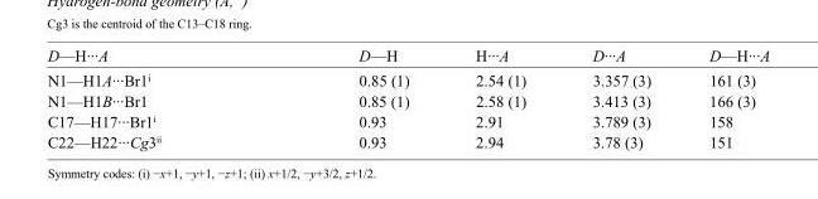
<table><tbody><tr><td>D—H···A</td><td>D—H</td><td>H···A</td><td>D···A</td><td>D—H···A</td></tr><tr><td>N1—H1A···Br1<sup>i</sup></td><td>0.85 (1)</td><td>2.54 (1)</td><td>3.357 (3)</td><td>161 (3)</td></tr><tr><td>N1—H1B···Br1</td><td>0.85 (1)</td><td>2.58 (1)</td><td>3.413 (3)</td><td>166 (3)</td></tr><tr><td>C17—H17···Br1<sup>i</sup></td><td>0.93</td><td>2.91</td><td>3.789 (3)</td><td>158</td></tr><tr><td>C22—H22···Cg3<sup>ii</sup></td><td>0.93</td><td>2.94</td><td>3.78 (3)</td><td>151</td></tr></tbody></table>